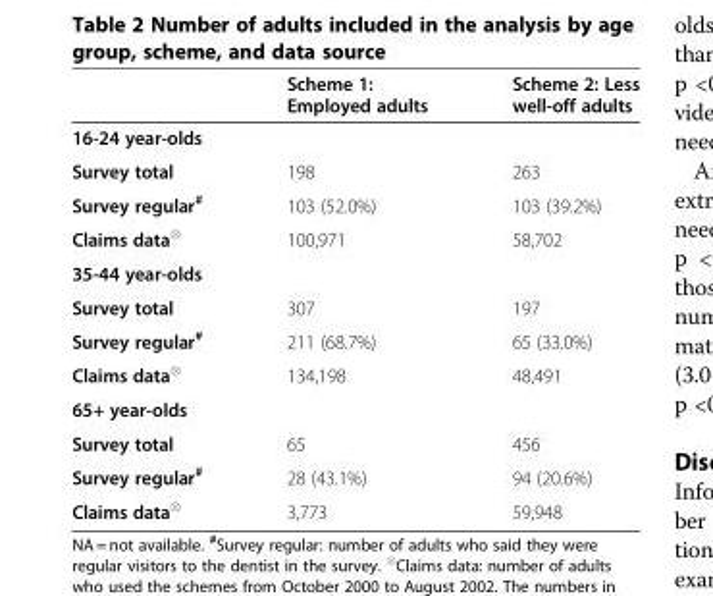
<table><thead><tr><td></td><td>Scheme 1: Employed adults</td><td>Scheme 2: Less well-off adults</td></tr></thead><tbody><tr><td colspan="3">16-24 year-olds</td></tr><tr><td>Survey total</td><td>198</td><td>263</td></tr><tr><td>Survey regular<sup>#</sup></td><td>103 (52.0%)</td><td>103 (39.2%)</td></tr><tr><td>Claims data<sup>⊗</sup></td><td>100,971</td><td>58,702</td></tr><tr><td colspan="3">35-44 year-olds</td></tr><tr><td>Survey total</td><td>307</td><td>197</td></tr><tr><td>Survey regular<sup>#</sup></td><td>211 (68.7%)</td><td>65 (33.0%)</td></tr><tr><td>Claims data<sup>⊗</sup></td><td>134,198</td><td>48,491</td></tr><tr><td colspan="3">65+ year-olds</td></tr><tr><td>Survey total</td><td>65</td><td>456</td></tr><tr><td>Survey regular<sup>#</sup></td><td>28 (43.1%)</td><td>94 (20.6%)</td></tr><tr><td>Claims data<sup>⊗</sup></td><td>3,773</td><td>59,948</td></tr></tbody></table>